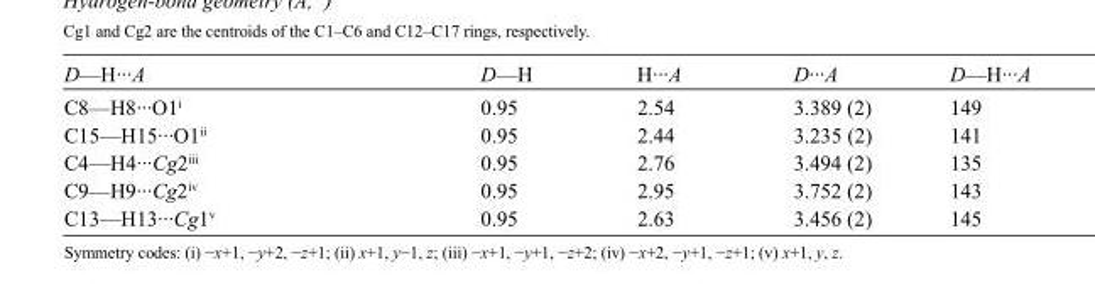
<table><tbody><tr><td>D—H···A</td><td>D—H</td><td>H···A</td><td>D···A</td><td>D—H···A</td></tr><tr><td>C8—H8···O1<sup>i</sup></td><td>0.95</td><td>2.54</td><td>3.389 (2)</td><td>149</td></tr><tr><td>C15—H15···O1<sup>ii</sup></td><td>0.95</td><td>2.44</td><td>3.235 (2)</td><td>141</td></tr><tr><td>C4—H4···Cg2<sup>iii</sup></td><td>0.95</td><td>2.76</td><td>3.494 (2)</td><td>135</td></tr><tr><td>C9—H9···Cg2<sup>iv</sup></td><td>0.95</td><td>2.95</td><td>3.752 (2)</td><td>143</td></tr><tr><td>C13—H13···Cg1<sup>v</sup></td><td>0.95</td><td>2.63</td><td>3.456 (2)</td><td>145</td></tr></tbody></table>